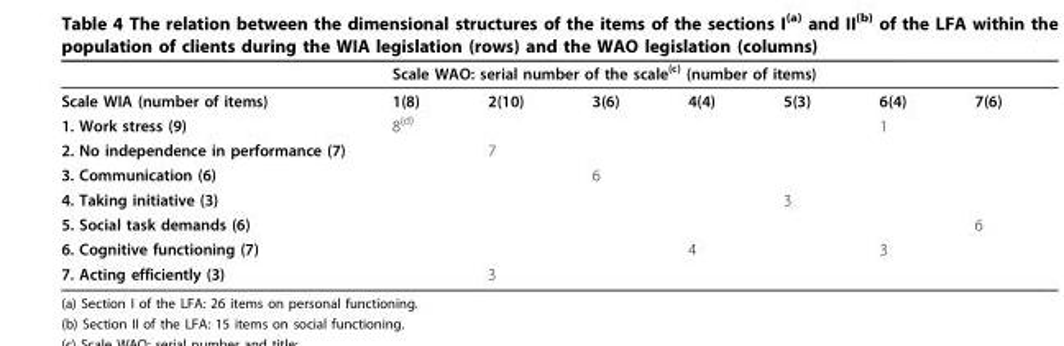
<table><thead><tr><td rowspan="2">Scale WIA (number of items)</td><td colspan="7">Scale WAO: serial number of the scale<sup>(c)</sup> (number of items)</td></tr><tr><td>1(8)</td><td>2(10)</td><td>3(6)</td><td>4(4)</td><td>5(3)</td><td>6(4)</td><td>7(6)</td></tr></thead><tbody><tr><td>1. Work stress (9)</td><td>8<sup>(d)</sup></td><td></td><td></td><td></td><td></td><td>1</td><td></td></tr><tr><td>2. No independence in performance (7)</td><td></td><td>7</td><td></td><td></td><td></td><td></td><td></td></tr><tr><td>3. Communication (6)</td><td></td><td></td><td>6</td><td></td><td></td><td></td><td></td></tr><tr><td>4. Taking initiative (3)</td><td></td><td></td><td></td><td></td><td>3</td><td></td><td></td></tr><tr><td>5. Social task demands (6)</td><td></td><td></td><td></td><td></td><td></td><td></td><td>6</td></tr><tr><td>6. Cognitive functioning (7)</td><td></td><td></td><td></td><td>4</td><td></td><td>3</td><td></td></tr><tr><td>7. Acting efficiently (3)</td><td></td><td>3</td><td></td><td></td><td></td><td></td><td></td></tr></tbody></table>